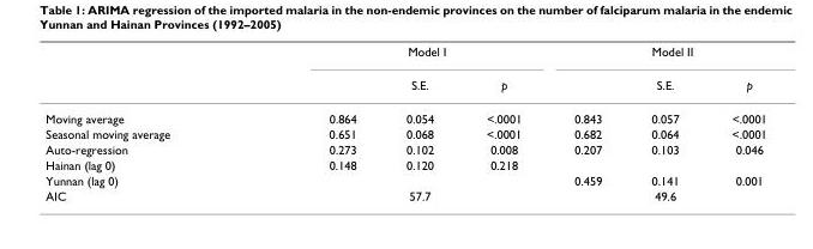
<table><thead><tr><td rowspan="2"></td><td colspan="3">Model I</td><td colspan="3">Model II</td></tr><tr><td></td><td>S.E.</td><td>p</td><td></td><td>S.E.</td><td>p</td></tr></thead><tbody><tr><td>Moving average</td><td>0.864</td><td>0.054</td><td>&lt;.0001</td><td>0.843</td><td>0.057</td><td>&lt;.0001</td></tr><tr><td>Seasonal moving average</td><td>0.651</td><td>0.068</td><td>&lt;.0001</td><td>0.682</td><td>0.064</td><td>&lt;.0001</td></tr><tr><td>Auto-regression</td><td>0.273</td><td>0.102</td><td>0.008</td><td>0.207</td><td>0.103</td><td>0.046</td></tr><tr><td>Hainan (lag 0)</td><td>0.148</td><td>0.120</td><td>0.218</td><td></td><td></td><td></td></tr><tr><td>Yunnan (lag 0)</td><td></td><td></td><td></td><td>0.459</td><td>0.141</td><td>0.001</td></tr><tr><td>AIC</td><td></td><td>57.7</td><td></td><td></td><td>49.6</td><td></td></tr></tbody></table>